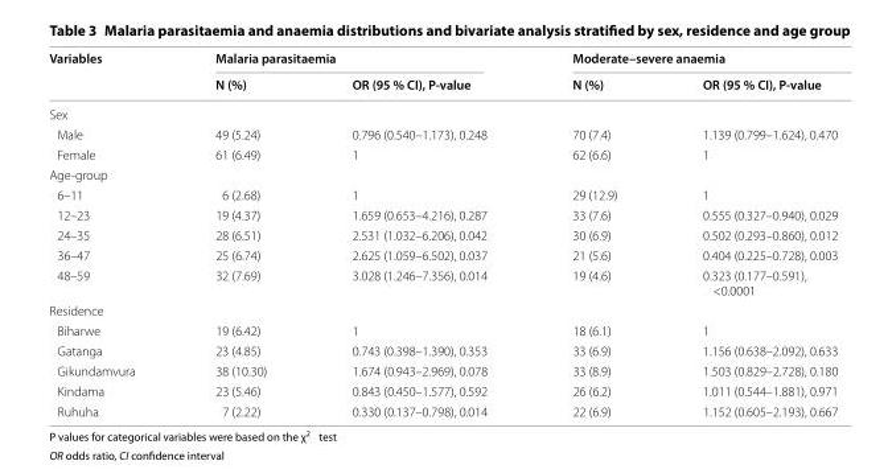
<table><thead><tr><td rowspan="2">Variables</td><td colspan="2">Malaria parasitaemia</td><td colspan="2">Moderate–severe anaemia</td></tr><tr><td>N (%)</td><td>OR (95 % CI), P-value</td><td>N (%)</td><td>OR (95 % CI), P-value</td></tr></thead><tbody><tr><td colspan="5">Sex</td></tr><tr><td>Male</td><td>49 (5.24)</td><td>0.796 (0.540–1.173), 0.248</td><td>70 (7.4)</td><td>1.139 (0.799–1.624), 0.470</td></tr><tr><td>Female</td><td>61 (6.49)</td><td>1</td><td>62 (6.6)</td><td>1</td></tr><tr><td colspan="5">Age-group</td></tr><tr><td>6–11</td><td>6 (2.68)</td><td>1</td><td>29 (12.9)</td><td>1</td></tr><tr><td>12–23</td><td>19 (4.37)</td><td>1.659 (0.653–4.216), 0.287</td><td>33 (7.6)</td><td>0.555 (0.327–0.940), 0.029</td></tr><tr><td>24–35</td><td>28 (6.51)</td><td>2.531 (1.032–6.206), 0.042</td><td>30 (6.9)</td><td>0.502 (0.293–0.860), 0.012</td></tr><tr><td>36–47</td><td>25 (6.74)</td><td>2.625 (1.059–6.502), 0.037</td><td>21 (5.6)</td><td>0.404 (0.225–0.728), 0.003</td></tr><tr><td>48–59</td><td>32 (7.69)</td><td>3.028 (1.246–7.356), 0.014</td><td>19 (4.6)</td><td>0.323 (0.177–0.591), &lt;0.0001</td></tr><tr><td colspan="5">Residence</td></tr><tr><td>Biharwe</td><td>19 (6.42)</td><td>1</td><td>18 (6.1)</td><td>1</td></tr><tr><td>Gatanga</td><td>23 (4.85)</td><td>0.743 (0.398–1.390), 0.353</td><td>33 (6.9)</td><td>1.156 (0.638–2.092), 0.633</td></tr><tr><td>Gikundamvura</td><td>38 (10.30)</td><td>1.674 (0.943–2.969), 0.078</td><td>33 (8.9)</td><td>1.503 (0.829–2.728), 0.180</td></tr><tr><td>Kindama</td><td>23 (5.46)</td><td>0.843 (0.450–1.577), 0.592</td><td>26 (6.2)</td><td>1.011 (0.544–1.881), 0.971</td></tr><tr><td>Ruhuha</td><td>7 (2.22)</td><td>0.330 (0.137–0.798), 0.014</td><td>22 (6.9)</td><td>1.152 (0.605–2.193), 0.667</td></tr></tbody></table>